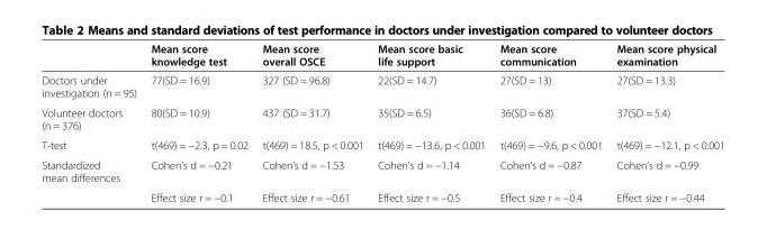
<table><thead><tr><td></td><td>Mean score knowledge test</td><td>Mean score overall OSCE</td><td>Mean score basic life support</td><td>Mean score communication</td><td>Mean score physical examination</td></tr></thead><tbody><tr><td>Doctors under investigation (n = 95)</td><td>77(SD = 16.9)</td><td>327 (SD = 96.8)</td><td>22(SD = 14.7)</td><td>27(SD = 13)</td><td>27(SD = 13.3)</td></tr><tr><td>Volunteer doctors (n = 376)</td><td>80(SD = 10.9)</td><td>437 (SD = 31.7)</td><td>35(SD = 6.5)</td><td>36(SD = 6.8)</td><td>37(SD = 5.4)</td></tr><tr><td>T-test</td><td>t(469) = −2.3, p = 0.02</td><td>t(469) = 18.5, p &lt; 0.001</td><td>t(469) = −13.6, p &lt; 0.001</td><td>t(469) = −9.6, p &lt; 0.001</td><td>t(469) = −12.1, p &lt; 0.001</td></tr><tr><td rowspan="2">Standardized mean differences</td><td>Cohen’s d = −0.21</td><td>Cohen’s d = −1.53</td><td>Cohen’s d = −1.14</td><td>Cohen’s d = −0.87</td><td>Cohen’s d = −0.99</td></tr><tr><td>Effect size r = −0.1</td><td>Effect size r = −0.61</td><td>Effect size r = −0.5</td><td>Effect size r = −0.4</td><td>Effect size r = −0.44</td></tr></tbody></table>